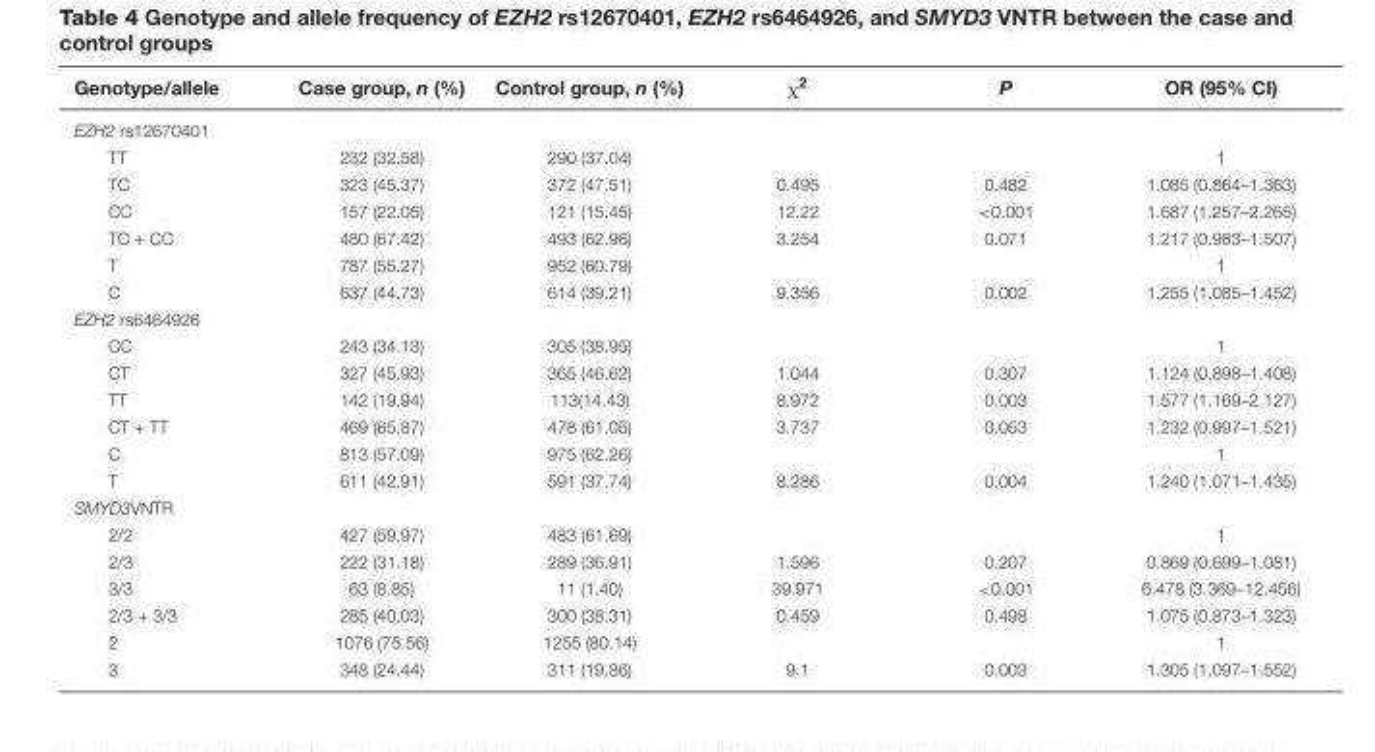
<table><thead><tr><td>Genotype/allele</td><td>Case group, n (%)</td><td>Control group, n (%)</td><td>χ<sup>2</sup></td><td>P</td><td>OR (95% CI)</td></tr></thead><tbody><tr><td colspan="6">EZH2 rs12670401</td></tr><tr><td>TT</td><td>232 (32.58)</td><td>290 (37.04)</td><td></td><td></td><td>1</td></tr><tr><td>TC</td><td>323 (45.37)</td><td>372 (47.51)</td><td>0.495</td><td>0.482</td><td>1.085 (0.864–1.363)</td></tr><tr><td>CC</td><td>157 (22.05)</td><td>121 (15.45)</td><td>12.22</td><td>&lt;0.001</td><td>1.687 (1.257–2.265)</td></tr><tr><td>TC + CC</td><td>480 (67.42)</td><td>493 (62.96)</td><td>3.254</td><td>0.071</td><td>1.217 (0.983–1.507)</td></tr><tr><td>T</td><td>787 (55.27)</td><td>952 (60.79)</td><td></td><td></td><td>1</td></tr><tr><td>C</td><td>637 (44.73)</td><td>614 (39.21)</td><td>9.356</td><td>0.002</td><td>1.255 (1.085–1.452)</td></tr><tr><td colspan="6">EZH2 rs6464926</td></tr><tr><td>CC</td><td>243 (34.13)</td><td>305 (38.95)</td><td></td><td></td><td>1</td></tr><tr><td>CT</td><td>327 (45.93)</td><td>365 (46.62)</td><td>1.044</td><td>0.307</td><td>1.124 (0.898–1.408)</td></tr><tr><td>TT</td><td>142 (19.94)</td><td>113(14.43)</td><td>8.972</td><td>0.003</td><td>1.577 (1.169–2.127)</td></tr><tr><td>CT + TT</td><td>469 (65.87)</td><td>478 (61.05)</td><td>3.737</td><td>0.053</td><td>1.232 (0.997–1.521)</td></tr><tr><td>C</td><td>813 (57.09)</td><td>975 (62.26)</td><td></td><td></td><td>1</td></tr><tr><td>T</td><td>611 (42.91)</td><td>591 (37.74)</td><td>8.286</td><td>0.004</td><td>1.240 (1.071–1.435)</td></tr><tr><td colspan="6">SMYD3VNTR</td></tr><tr><td>2/2</td><td>427 (59.97)</td><td>483 (61.69)</td><td></td><td></td><td>1</td></tr><tr><td>2/3</td><td>222 (31.18)</td><td>289 (36.91)</td><td>1.596</td><td>0.207</td><td>0.869 (0.699–1.081)</td></tr><tr><td>3/3</td><td>63 (8.85)</td><td>11 (1.40)</td><td>39.971</td><td>&lt;0.001</td><td>6.478 (3.369–12.456)</td></tr><tr><td>2/3 + 3/3</td><td>285 (40.03)</td><td>300 (38.31)</td><td>0.459</td><td>0.498</td><td>1.075 (0.873–1.323)</td></tr><tr><td>2</td><td>1076 (75.56)</td><td>1255 (80.14)</td><td></td><td></td><td>1</td></tr><tr><td>3</td><td>348 (24.44)</td><td>311 (19.86)</td><td>9.1</td><td>0.003</td><td>1.305 (1.097–1.552)</td></tr></tbody></table>